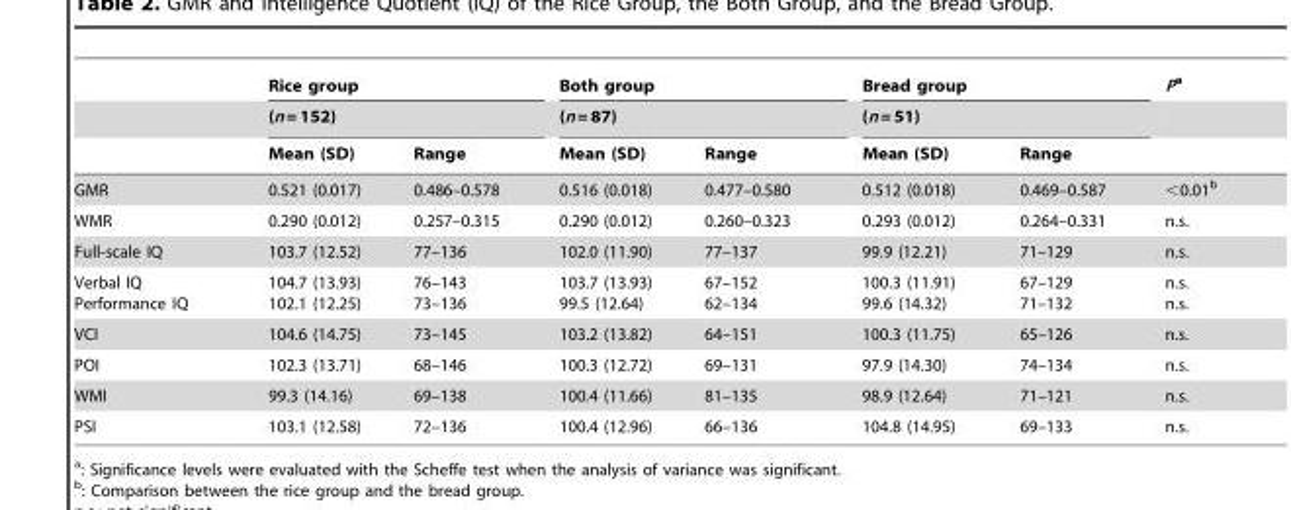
<table><thead><tr><td rowspan="3"></td><td rowspan="2" colspan="2">Rice group (n = 152)</td><td rowspan="2" colspan="2">Both group (n = 87)</td><td rowspan="2" colspan="2">Bread group (n = 51)</td><td rowspan="3">Pa</td></tr><tr></tr><tr><td>Mean (SD)</td><td>Range</td><td>Mean (SD)</td><td>Range</td><td>Mean (SD)</td><td>Range</td></tr></thead><tbody><tr><td>GMR</td><td>0.521 (0.017)</td><td>0.486–0.578</td><td>0.516 (0.018)</td><td>0.477–0.580</td><td>0.512 (0.018)</td><td>0.469–0.587</td><td>&lt;0.01<sup>b</sup></td></tr><tr><td>WMR</td><td>0.290 (0.012)</td><td>0.257–0.315</td><td>0.290 (0.012)</td><td>0.260–0.323</td><td>0.293 (0.012)</td><td>0.264–0.331</td><td>n.s.</td></tr><tr><td>Full-scale IQ</td><td>103.7 (12.52)</td><td>77–136</td><td>102.0 (11.90)</td><td>77–137</td><td>99.9 (12.21)</td><td>71–129</td><td>n.s.</td></tr><tr><td>Verbal IQ Performance IQ</td><td>104.7 (13.93) 102.1 (12.25)</td><td>76–143 73–136</td><td>103.7 (13.93) 99.5 (12.64)</td><td>67–152 62–134</td><td>100.3 (11.91) 99.6 (14.32)</td><td>67–129 71–132</td><td>n.s. n.s.</td></tr><tr><td>VCI</td><td>104.6 (14.75)</td><td>73–145</td><td>103.2 (13.82)</td><td>64–151</td><td>100.3 (11.75)</td><td>65–126</td><td>n.s.</td></tr><tr><td>POI</td><td>102.3 (13.71)</td><td>68–146</td><td>100.3 (12.72)</td><td>69–131</td><td>97.9 (14.30)</td><td>74–134</td><td>n.s.</td></tr><tr><td>WMI</td><td>99.3 (14.16)</td><td>69–138</td><td>100.4 (11.66)</td><td>81–135</td><td>98.9 (12.64)</td><td>71–121</td><td>n.s.</td></tr><tr><td>PSI</td><td>103.1 (12.58)</td><td>72–136</td><td>100.4 (12.96)</td><td>66–136</td><td>104.8 (14.95)</td><td>69–133</td><td>n.s.</td></tr></tbody></table>